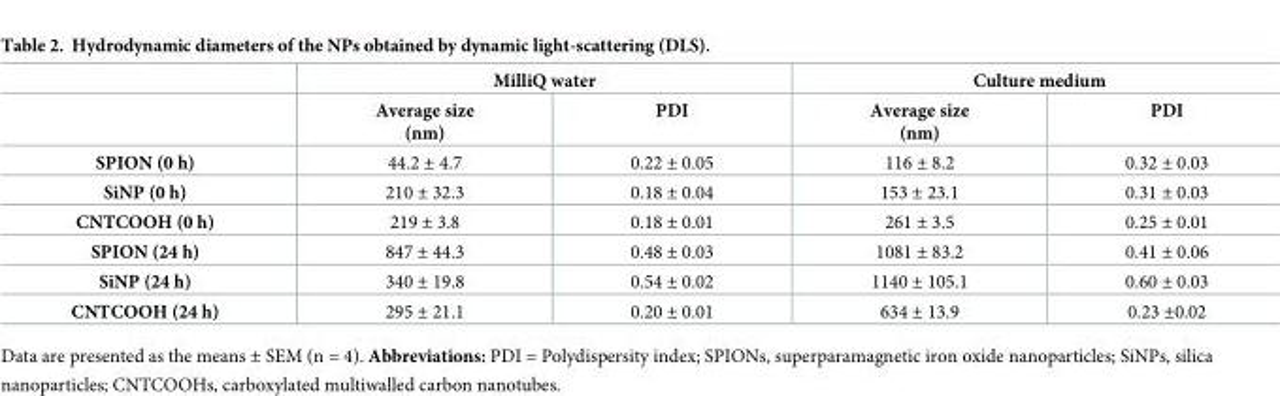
<table><thead><tr><td rowspan="2"></td><td colspan="2">MilliQ water</td><td colspan="2">Culture medium</td></tr><tr><td>Average size (nm)</td><td>PDI</td><td>Average size (nm)</td><td>PDI</td></tr></thead><tbody><tr><td>SPION (0 h)</td><td>44.2 ± 4.7</td><td>0.22 ± 0.05</td><td>116 ± 8.2</td><td>0.32 ± 0.03</td></tr><tr><td>SiNP (0 h)</td><td>210 ± 32.3</td><td>0.18 ± 0.04</td><td>153 ± 23.1</td><td>0.31 ± 0.03</td></tr><tr><td>CNTCOOH (0 h)</td><td>219 ± 3.8</td><td>0.18 ± 0.01</td><td>261 ± 3.5</td><td>0.25 ± 0.01</td></tr><tr><td>SPION (24 h)</td><td>847 ± 44.3</td><td>0.48 ± 0.03</td><td>1081 ± 83.2</td><td>0.41 ± 0.06</td></tr><tr><td>SiNP (24 h)</td><td>340 ± 19.8</td><td>0.54 ± 0.02</td><td>1140 ± 105.1</td><td>0.60 ± 0.03</td></tr><tr><td>CNTCOOH (24 h)</td><td>295 ± 21.1</td><td>0.20 ± 0.01</td><td>634 ± 13.9</td><td>0.23 ±0.02</td></tr></tbody></table>